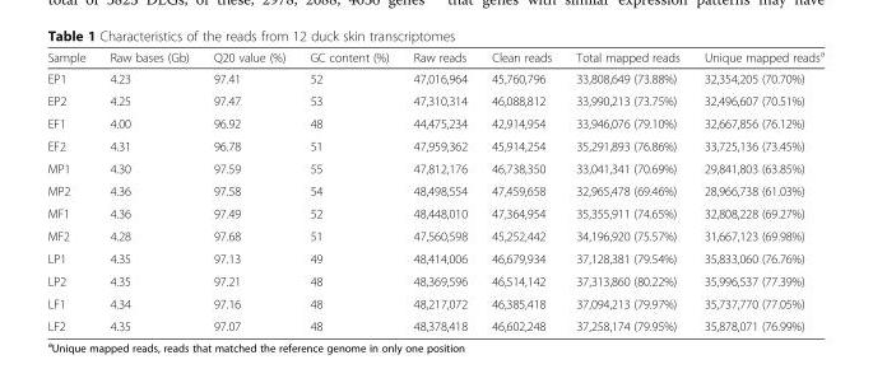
<table><thead><tr><td>Sample</td><td>Raw bases (Gb)</td><td>Q20 value (%)</td><td>GC content (%)</td><td>Raw reads</td><td>Clean reads</td><td>Total mapped reads</td><td>Unique mapped reads<sup>a</sup></td></tr></thead><tbody><tr><td>EP1</td><td>4.23</td><td>97.41</td><td>52</td><td>47,016,964</td><td>45,760,796</td><td>33,808,649 (73.88%)</td><td>32,354,205 (70.70%)</td></tr><tr><td>EP2</td><td>4.25</td><td>97.47</td><td>53</td><td>47,310,314</td><td>46,088,812</td><td>33,990,213 (73.75%)</td><td>32,496,607 (70.51%)</td></tr><tr><td>EF1</td><td>4.00</td><td>96.92</td><td>48</td><td>44,475,234</td><td>42,914,954</td><td>33,946,076 (79.10%)</td><td>32,667,856 (76.12%)</td></tr><tr><td>EF2</td><td>4.31</td><td>96.78</td><td>51</td><td>47,959,362</td><td>45,914,254</td><td>35,291,893 (76.86%)</td><td>33,725,136 (73.45%)</td></tr><tr><td>MP1</td><td>4.30</td><td>97.59</td><td>55</td><td>47,812,176</td><td>46,738,350</td><td>33,041,341 (70.69%)</td><td>29,841,803 (63.85%)</td></tr><tr><td>MP2</td><td>4.36</td><td>97.58</td><td>54</td><td>48,498,554</td><td>47,459,658</td><td>32,965,478 (69.46%)</td><td>28,966,738 (61.03%)</td></tr><tr><td>MF1</td><td>4.36</td><td>97.49</td><td>52</td><td>48,448,010</td><td>47,364,954</td><td>35,355,911 (74.65%)</td><td>32,808,228 (69.27%)</td></tr><tr><td>MF2</td><td>4.28</td><td>97.68</td><td>51</td><td>47,560,598</td><td>45,252,442</td><td>34,196,920 (75.57%)</td><td>31,667,123 (69.98%)</td></tr><tr><td>LP1</td><td>4.35</td><td>97.13</td><td>49</td><td>48,414,006</td><td>46,679,934</td><td>37,128,381 (79.54%)</td><td>35,833,060 (76.76%)</td></tr><tr><td>LP2</td><td>4.35</td><td>97.21</td><td>48</td><td>48,369,596</td><td>46,514,142</td><td>37,313,860 (80.22%)</td><td>35,996,537 (77.39%)</td></tr><tr><td>LF1</td><td>4.34</td><td>97.16</td><td>48</td><td>48,217,072</td><td>46,385,418</td><td>37,094,213 (79.97%)</td><td>35,737,770 (77.05%)</td></tr><tr><td>LF2</td><td>4.35</td><td>97.07</td><td>48</td><td>48,378,418</td><td>46,602,248</td><td>37,258,174 (79.95%)</td><td>35,878,071 (76.99%)</td></tr></tbody></table>